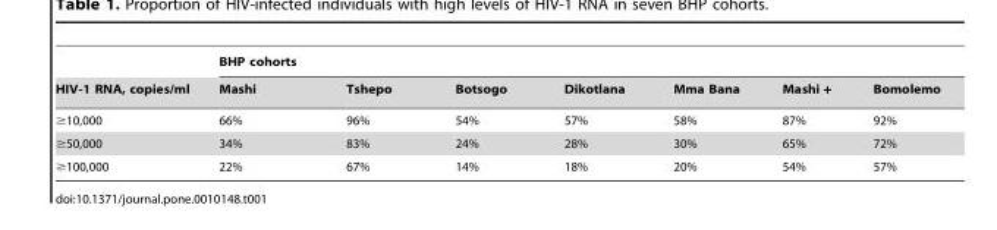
<table><thead><tr><td rowspan="2">HIV-1 RNA, copies/ml</td><td colspan="7">BHP cohorts</td></tr><tr><td>Mashi</td><td>Tshepo</td><td>Botsogo</td><td>Dikotlana</td><td>Mma Bana</td><td>Mashi +</td><td>Bomolemo</td></tr></thead><tbody><tr><td>≥10,000</td><td>66%</td><td>96%</td><td>54%</td><td>57%</td><td>58%</td><td>87%</td><td>92%</td></tr><tr><td>≥50,000</td><td>34%</td><td>83%</td><td>24%</td><td>28%</td><td>30%</td><td>65%</td><td>72%</td></tr><tr><td>≥100,000</td><td>22%</td><td>67%</td><td>14%</td><td>18%</td><td>20%</td><td>54%</td><td>57%</td></tr></tbody></table>